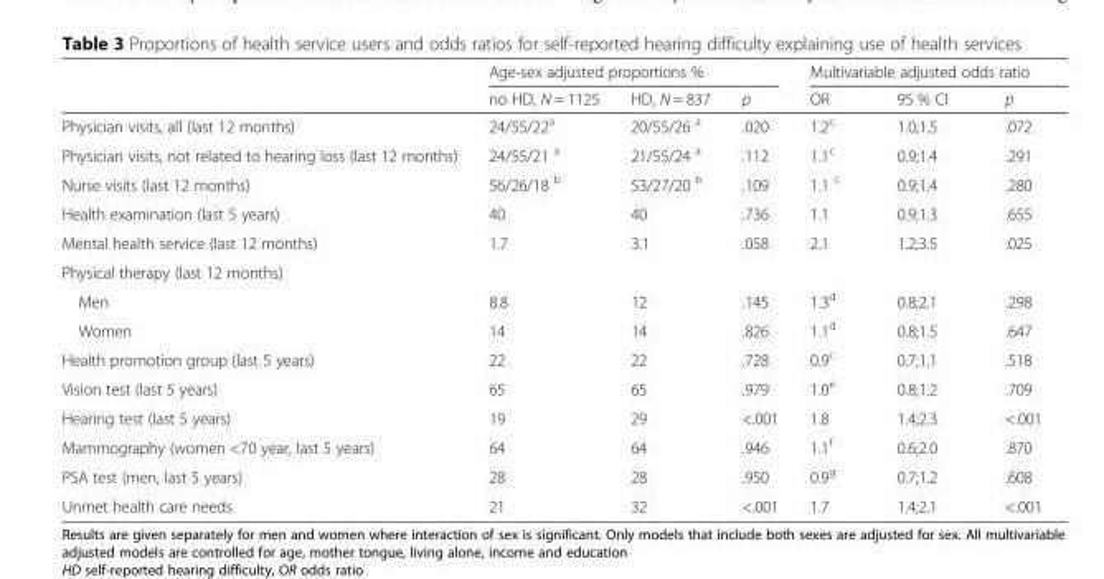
<table><thead><tr><td rowspan="2"></td><td colspan="3">Age-sex adjusted proportions %</td><td colspan="3">Multivariable adjusted odds ratio</td></tr><tr><td>no HD, N = 1125</td><td>HD, N = 837</td><td>p</td><td>OR</td><td>95 % CI</td><td>p</td></tr></thead><tbody><tr><td>Physician visits, all (last 12 months)</td><td>24/55/22<sup>a</sup></td><td>20/55/26 <sup>a</sup></td><td>.020</td><td>1.2<sup>c</sup></td><td>1.0;1.5</td><td>.072</td></tr><tr><td>Physician visits, not related to hearing loss (last 12 months)</td><td>24/55/21 <sup>a</sup></td><td>21/55/24 <sup>a</sup></td><td>.112</td><td>1.1<sup>c</sup></td><td>0.9;1.4</td><td>.291</td></tr><tr><td>Nurse visits (last 12 months)</td><td>56/26/18 <sup>b</sup></td><td>53/27/20 <sup>b</sup></td><td>.109</td><td>1.1 <sup>c</sup></td><td>0.9;1.4</td><td>.280</td></tr><tr><td>Health examination (last 5 years)</td><td>40</td><td>40</td><td>.736</td><td>1.1</td><td>0.9;1.3</td><td>.655</td></tr><tr><td>Mental health service (last 12 months)</td><td>1.7</td><td>3.1</td><td>.058</td><td>2.1</td><td>1.2;3.5</td><td>.025</td></tr><tr><td colspan="7">Physical therapy (last 12 months)</td></tr><tr><td>Men</td><td>8.8</td><td>12</td><td>.145</td><td>1.3<sup>d</sup></td><td>0.8;2.1</td><td>.298</td></tr><tr><td>Women</td><td>14</td><td>14</td><td>.826</td><td>1.1<sup>d</sup></td><td>0.8;1.5</td><td>.647</td></tr><tr><td>Health promotion group (last 5 years)</td><td>22</td><td>22</td><td>.728</td><td>0.9<sup>c</sup></td><td>0.7;1.1</td><td>.518</td></tr><tr><td>Vision test (last 5 years)</td><td>65</td><td>65</td><td>.979</td><td>1.0<sup>e</sup></td><td>0.8;1.2</td><td>.709</td></tr><tr><td>Hearing test (last 5 years)</td><td>19</td><td>29</td><td>&lt;.001</td><td>1.8</td><td>1.4;2.3</td><td>&lt;.001</td></tr><tr><td>Mammography (women &lt;70 year, last 5 years)</td><td>64</td><td>64</td><td>.946</td><td>1.1<sup>f</sup></td><td>0.6;2.0</td><td>.870</td></tr><tr><td>PSA test (men, last 5 years)</td><td>28</td><td>28</td><td>.950</td><td>0.9<sup>g</sup></td><td>0.7;1.2</td><td>.608</td></tr><tr><td>Unmet health care needs</td><td>21</td><td>32</td><td>&lt;.001</td><td>1.7</td><td>1.4;2.1</td><td>&lt;.001</td></tr></tbody></table>